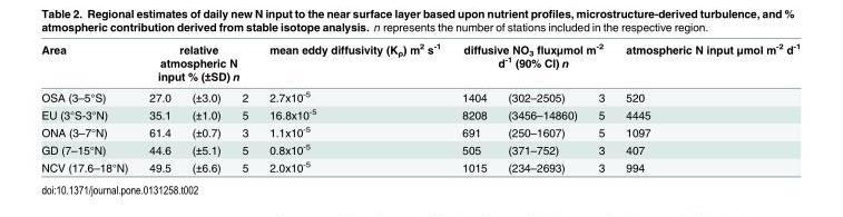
<table><thead><tr><td rowspan="2">Area OSA (3–5°S)</td><td colspan="3">relative atmospheric N input % (±SD) n</td><td rowspan="2">mean eddy diffusivity (K<sub>ρ</sub>) m<sup>2</sup> s<sup>-1</sup> 2.7x10<sup>-5</sup></td><td colspan="3">diffusive NO<sub>3</sub> fluxμmol m<sup>-2</sup> d<sup>-1</sup> (90% CI) n</td><td rowspan="2">atmospheric N input μmol m<sup>-2</sup> d<sup>-1</sup> 520</td></tr><tr><td>27.0</td><td>(±3.0)</td><td>2</td><td>1404</td><td>(302–2505)</td><td>3</td></tr></thead><tbody><tr><td>EU (3°S-3°N)</td><td>35.1</td><td>(±1.0)</td><td>5</td><td>16.8x10<sup>-5</sup></td><td>8208</td><td>(3456–14860)</td><td>5</td><td>4445</td></tr><tr><td>ONA (3–7°N)</td><td>61.4</td><td>(±0.7)</td><td>3</td><td>1.1x10<sup>-5</sup></td><td>691</td><td>(250–1607)</td><td>5</td><td>1097</td></tr><tr><td>GD (7–15°N)</td><td>44.6</td><td>(±5.1)</td><td>5</td><td>0.8x10<sup>-5</sup></td><td>505</td><td>(371–752)</td><td>3</td><td>407</td></tr><tr><td>NCV (17.6–18°N)</td><td>49.5</td><td>(±6.6)</td><td>5</td><td>2.0x10<sup>-5</sup></td><td>1015</td><td>(234–2693)</td><td>3</td><td>994</td></tr></tbody></table>